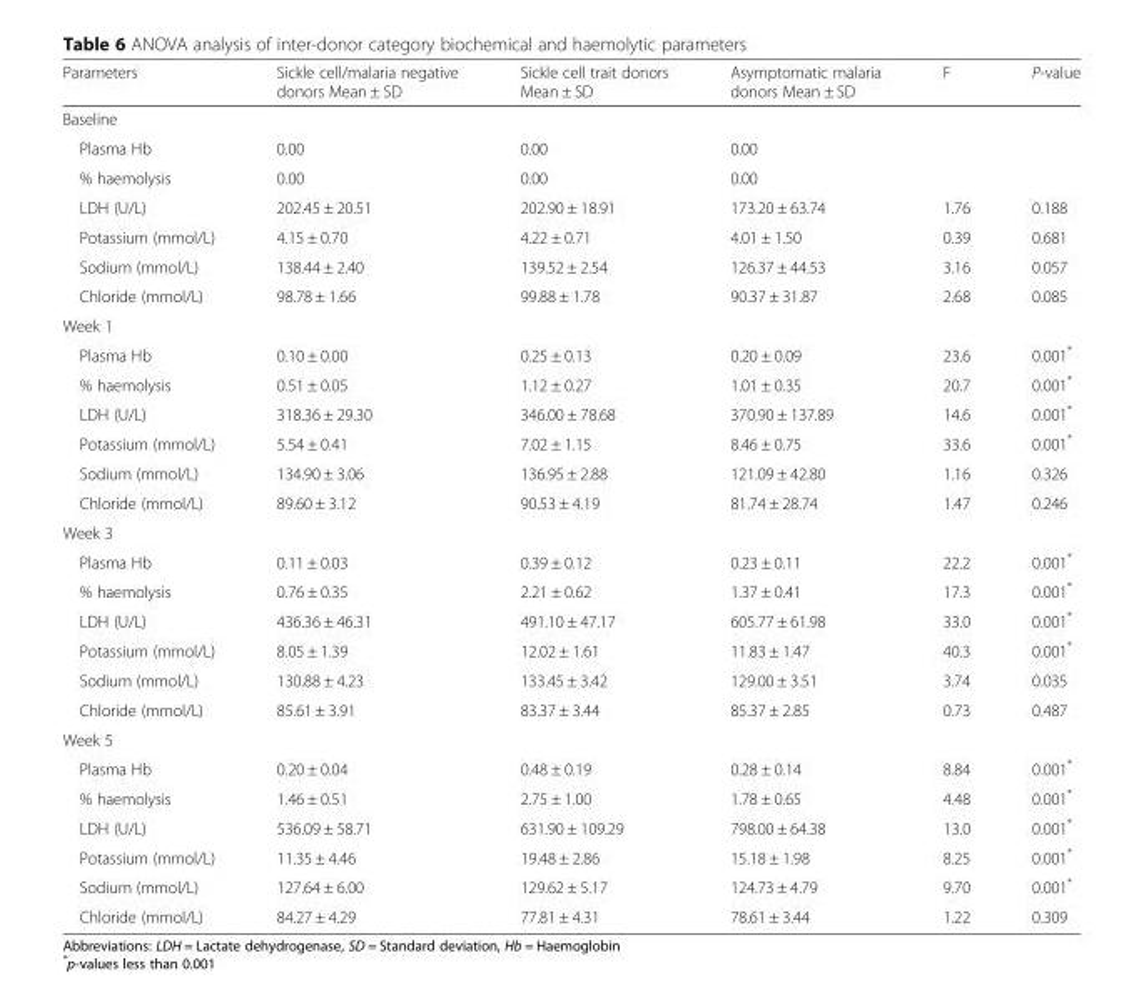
<table><thead><tr><td>Parameters</td><td>Sickle cell/malaria negative donors Mean ± SD</td><td>Sickle cell trait donors Mean ± SD</td><td>Asymptomatic malaria donors Mean ± SD</td><td>F</td><td>P-value</td></tr></thead><tbody><tr><td colspan="6">Baseline</td></tr><tr><td>Plasma Hb</td><td>0.00</td><td>0.00</td><td>0.00</td><td></td><td></td></tr><tr><td>% haemolysis</td><td>0.00</td><td>0.00</td><td>0.00</td><td></td><td></td></tr><tr><td>LDH (U/L)</td><td>202.45 ± 20.51</td><td>202.90 ± 18.91</td><td>173.20 ± 63.74</td><td>1.76</td><td>0.188</td></tr><tr><td>Potassium (mmol/L)</td><td>4.15 ± 0.70</td><td>4.22 ± 0.71</td><td>4.01 ± 1.50</td><td>0.39</td><td>0.681</td></tr><tr><td>Sodium (mmol/L)</td><td>138.44 ± 2.40</td><td>139.52 ± 2.54</td><td>126.37 ± 44.53</td><td>3.16</td><td>0.057</td></tr><tr><td>Chloride (mmol/L)</td><td>98.78 ± 1.66</td><td>99.88 ± 1.78</td><td>90.37 ± 31.87</td><td>2.68</td><td>0.085</td></tr><tr><td colspan="6">Week 1</td></tr><tr><td>Plasma Hb</td><td>0.10 ± 0.00</td><td>0.25 ± 0.13</td><td>0.20 ± 0.09</td><td>23.6</td><td>0.001*</td></tr><tr><td>% haemolysis</td><td>0.51 ± 0.05</td><td>1.12 ± 0.27</td><td>1.01 ± 0.35</td><td>20.7</td><td>0.001*</td></tr><tr><td>LDH (U/L)</td><td>318.36 ± 29.30</td><td>346.00 ± 78.68</td><td>370.90 ± 137.89</td><td>14.6</td><td>0.001*</td></tr><tr><td>Potassium (mmol/L)</td><td>5.54 ± 0.41</td><td>7.02 ± 1.15</td><td>8.46 ± 0.75</td><td>33.6</td><td>0.001*</td></tr><tr><td>Sodium (mmol/L)</td><td>134.90 ± 3.06</td><td>136.95 ± 2.88</td><td>121.09 ± 42.80</td><td>1.16</td><td>0.326</td></tr><tr><td>Chloride (mmol/L)</td><td>89.60 ± 3.12</td><td>90.53 ± 4.19</td><td>81.74 ± 28.74</td><td>1.47</td><td>0.246</td></tr><tr><td colspan="6">Week 3</td></tr><tr><td>Plasma Hb</td><td>0.11 ± 0.03</td><td>0.39 ± 0.12</td><td>0.23 ± 0.11</td><td>22.2</td><td>0.001*</td></tr><tr><td>% haemolysis</td><td>0.76 ± 0.35</td><td>2.21 ± 0.62</td><td>1.37 ± 0.41</td><td>17.3</td><td>0.001*</td></tr><tr><td>LDH (U/L)</td><td>436.36 ± 46.31</td><td>491.10 ± 47.17</td><td>605.77 ± 61.98</td><td>33.0</td><td>0.001*</td></tr><tr><td>Potassium (mmol/L)</td><td>8.05 ± 1.39</td><td>12.02 ± 1.61</td><td>11.83 ± 1.47</td><td>40.3</td><td>0.001*</td></tr><tr><td>Sodium (mmol/L)</td><td>130.88 ± 4.23</td><td>133.45 ± 3.42</td><td>129.00 ± 3.51</td><td>3.74</td><td>0.035</td></tr><tr><td>Chloride (mmol/L)</td><td>85.61 ± 3.91</td><td>83.37 ± 3.44</td><td>85.37 ± 2.85</td><td>0.73</td><td>0.487</td></tr><tr><td colspan="6">Week 5</td></tr><tr><td>Plasma Hb</td><td>0.20 ± 0.04</td><td>0.48 ± 0.19</td><td>0.28 ± 0.14</td><td>8.84</td><td>0.001*</td></tr><tr><td>% haemolysis</td><td>1.46 ± 0.51</td><td>2.75 ± 1.00</td><td>1.78 ± 0.65</td><td>4.48</td><td>0.001*</td></tr><tr><td>LDH (U/L)</td><td>536.09 ± 58.71</td><td>631.90 ± 109.29</td><td>798.00 ± 64.38</td><td>13.0</td><td>0.001*</td></tr><tr><td>Potassium (mmol/L)</td><td>11.35 ± 4.46</td><td>19.48 ± 2.86</td><td>15.18 ± 1.98</td><td>8.25</td><td>0.001*</td></tr><tr><td>Sodium (mmol/L)</td><td>127.64 ± 6.00</td><td>129.62 ± 5.17</td><td>124.73 ± 4.79</td><td>9.70</td><td>0.001*</td></tr><tr><td>Chloride (mmol/L)</td><td>84.27 ± 4.29</td><td>77.81 ± 4.31</td><td>78.61 ± 3.44</td><td>1.22</td><td>0.309</td></tr></tbody></table>